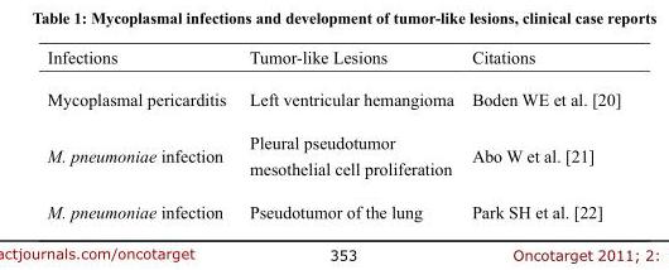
<table><thead><tr><td>Infections</td><td>Tumor-like Lesions</td><td>Citations</td></tr></thead><tbody><tr><td>Mycoplasmal pericarditis</td><td>Left ventricular hemangioma</td><td>Boden WE et al. [20]</td></tr><tr><td>M. pneumoniae infection</td><td>Pleural pseudotumor mesothelial cell proliferation</td><td>Abo W et al. [21]</td></tr><tr><td>M. pneumoniae infection</td><td>Pseudotumor of the lung</td><td>Park SH et al. [22]</td></tr></tbody></table>